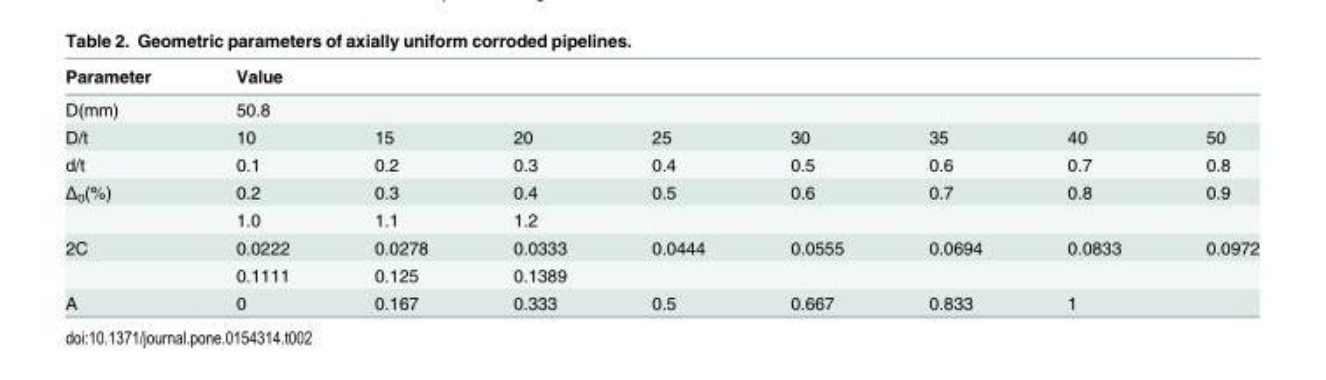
<table><thead><tr><td rowspan="2">Parameter D(mm)</td><td colspan="8">Value</td></tr><tr><td>50.8</td><td></td><td></td><td></td><td></td><td></td><td></td><td></td></tr></thead><tbody><tr><td>D/t</td><td>10</td><td>15</td><td>20</td><td>25</td><td>30</td><td>35</td><td>40</td><td>50</td></tr><tr><td>d/t</td><td>0.1</td><td>0.2</td><td>0.3</td><td>0.4</td><td>0.5</td><td>0.6</td><td>0.7</td><td>0.8</td></tr><tr><td rowspan="2">Δ<sub>0</sub>(%)</td><td>0.2</td><td>0.3</td><td>0.4</td><td>0.5</td><td>0.6</td><td>0.7</td><td>0.8</td><td>0.9</td></tr><tr><td>1.0</td><td>1.1</td><td>1.2</td><td></td><td></td><td></td><td></td><td></td></tr><tr><td rowspan="2">2C</td><td>0.0222</td><td>0.0278</td><td>0.0333</td><td>0.0444</td><td>0.0555</td><td>0.0694</td><td>0.0833</td><td>0.0972</td></tr><tr><td>0.1111</td><td>0.125</td><td>0.1389</td><td></td><td></td><td></td><td></td><td></td></tr><tr><td>A</td><td>0</td><td>0.167</td><td>0.333</td><td>0.5</td><td>0.667</td><td>0.833</td><td>1</td><td></td></tr></tbody></table>